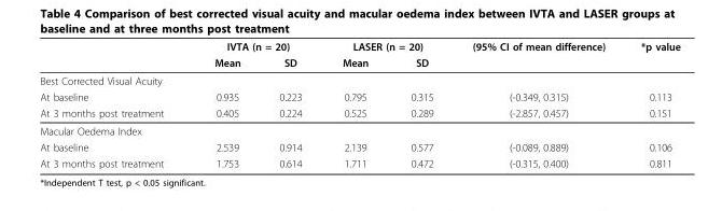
<table><thead><tr><td rowspan="2"></td><td colspan="2">IVTA (n = 20)</td><td colspan="2">LASER (n = 20)</td><td rowspan="2">(95% CI of mean difference)</td><td rowspan="2">*p value</td></tr><tr><td>Mean</td><td>SD</td><td>Mean</td><td>SD</td></tr></thead><tbody><tr><td colspan="7">Best Corrected Visual Acuity</td></tr><tr><td>At baseline</td><td>0.935</td><td>0.223</td><td>0.795</td><td>0.315</td><td>(-0.349, 0.315)</td><td>0.113</td></tr><tr><td>At 3 months post treatment</td><td>0.405</td><td>0.224</td><td>0.525</td><td>0.289</td><td>(-2.857, 0.457)</td><td>0.151</td></tr><tr><td colspan="7">Macular Oedema Index</td></tr><tr><td>At baseline</td><td>2.539</td><td>0.914</td><td>2.139</td><td>0.577</td><td>(-0.089, 0.889)</td><td>0.106</td></tr><tr><td>At 3 months post treatment</td><td>1.753</td><td>0.614</td><td>1.711</td><td>0.472</td><td>(-0.315, 0.400)</td><td>0.811</td></tr></tbody></table>